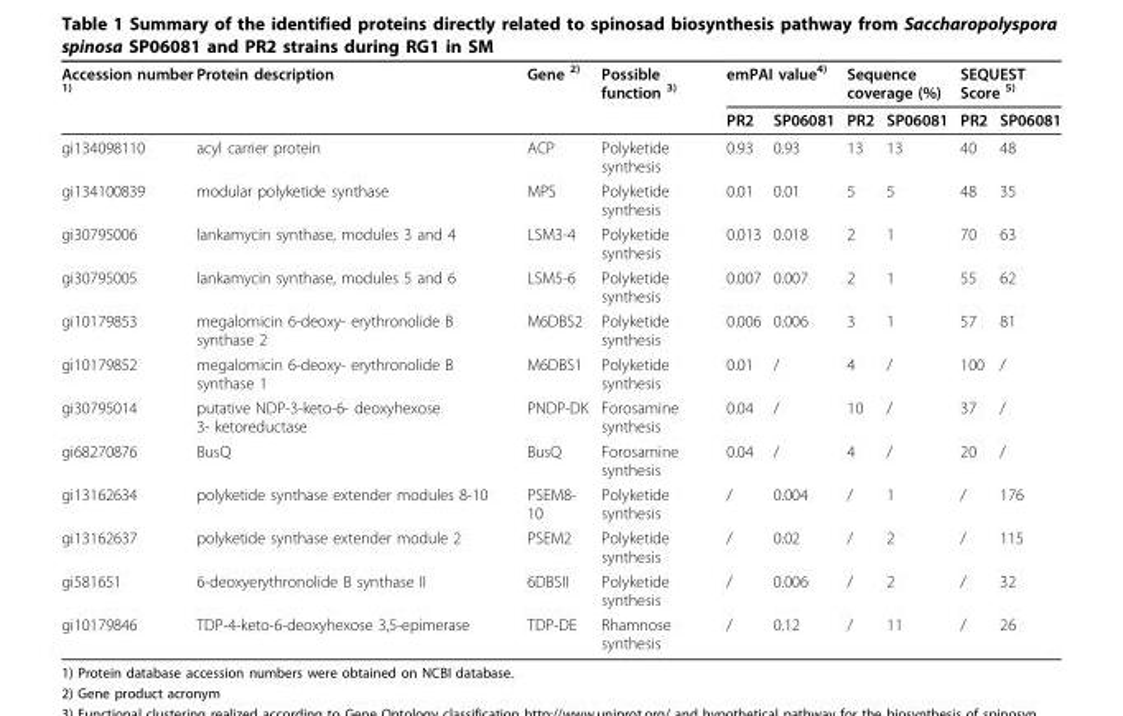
<table><thead><tr><td rowspan="2">Accession number <sup>1)</sup></td><td rowspan="2">Protein description</td><td rowspan="2">Gene <sup>2)</sup></td><td rowspan="2">Possible function <sup>3)</sup></td><td colspan="2">emPAI value<sup>4)</sup></td><td colspan="2">Sequence coverage (%)</td><td colspan="2">SEQUEST Score <sup>5)</sup></td></tr><tr><td>PR2</td><td>SP06081</td><td>PR2</td><td>SP06081</td><td>PR2</td><td>SP06081</td></tr></thead><tbody><tr><td>gi134098110</td><td>acyl carrier protein</td><td>ACP</td><td>Polyketide synthesis</td><td>0.93</td><td>0.93</td><td>13</td><td>13</td><td>40</td><td>48</td></tr><tr><td>gi134100839</td><td>modular polyketide synthase</td><td>MPS</td><td>Polyketide synthesis</td><td>0.01</td><td>0.01</td><td>5</td><td>5</td><td>48</td><td>35</td></tr><tr><td>gi30795006</td><td>lankamycin synthase, modules 3 and 4</td><td>LSM3-4</td><td>Polyketide synthesis</td><td>0.013</td><td>0.018</td><td>2</td><td>1</td><td>70</td><td>63</td></tr><tr><td>gi30795005</td><td>lankamycin synthase, modules 5 and 6</td><td>LSM5-6</td><td>Polyketide synthesis</td><td>0.007</td><td>0.007</td><td>2</td><td>1</td><td>55</td><td>62</td></tr><tr><td>gi10179853</td><td>megalomicin 6-deoxy- erythronolide B synthase 2</td><td>M6DBS2</td><td>Polyketide synthesis</td><td>0.006</td><td>0.006</td><td>3</td><td>1</td><td>57</td><td>81</td></tr><tr><td>gi10179852</td><td>megalomicin 6-deoxy- erythronolide B synthase 1</td><td>M6DBS1</td><td>Polyketide synthesis</td><td>0.01</td><td>/</td><td>4</td><td>/</td><td>100</td><td>/</td></tr><tr><td>gi30795014</td><td>putative NDP-3-keto-6- deoxyhexose 3- ketoreductase</td><td>PNDP-DK</td><td>Forosamine synthesis</td><td>0.04</td><td>/</td><td>10</td><td>/</td><td>37</td><td>/</td></tr><tr><td>gi68270876</td><td>BusQ</td><td>BusQ</td><td>Forosamine synthesis</td><td>0.04</td><td>/</td><td>4</td><td>/</td><td>20</td><td>/</td></tr><tr><td>gi13162634</td><td>polyketide synthase extender modules 8-10</td><td>PSEM8- 10</td><td>Polyketide synthesis</td><td>/</td><td>0.004</td><td>/</td><td>1</td><td>/</td><td>176</td></tr><tr><td>gi13162637</td><td>polyketide synthase extender module 2</td><td>PSEM2</td><td>Polyketide synthesis</td><td>/</td><td>0.02</td><td>/</td><td>2</td><td>/</td><td>115</td></tr><tr><td>gi581651</td><td>6-deoxyerythronolide B synthase II</td><td>6DBSII</td><td>Polyketide synthesis</td><td>/</td><td>0.006</td><td>/</td><td>2</td><td>/</td><td>32</td></tr><tr><td>gi10179846</td><td>TDP-4-keto-6-deoxyhexose 3,5-epimerase</td><td>TDP-DE</td><td>Rhamnose synthesis</td><td>/</td><td>0.12</td><td>/</td><td>11</td><td>/</td><td>26</td></tr></tbody></table>